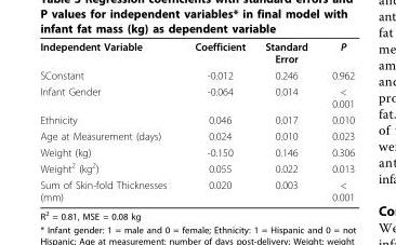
<table><tbody><tr><td>Independent Variable</td><td>Coefficient</td><td>Standard Error</td><td>P</td></tr><tr><td>SConstant</td><td>-0.012</td><td>0.246</td><td>0.962</td></tr><tr><td>Infant Gender</td><td>-0.064</td><td>0.014</td><td>&lt; 0.001</td></tr><tr><td>Ethnicity</td><td>0.046</td><td>0.017</td><td>0.010</td></tr><tr><td>Age at Measurement (days)</td><td>0.024</td><td>0.010</td><td>0.023</td></tr><tr><td>Weight (kg)</td><td>-0.150</td><td>0.146</td><td>0.306</td></tr><tr><td>Weight<sup>2</sup> (kg<sup>2</sup>)</td><td>0.055</td><td>0.022</td><td>0.013</td></tr><tr><td>Sum of Skin-fold Thicknesses (mm)</td><td>0.020</td><td>0.003</td><td>&lt; 0.001</td></tr></tbody></table>